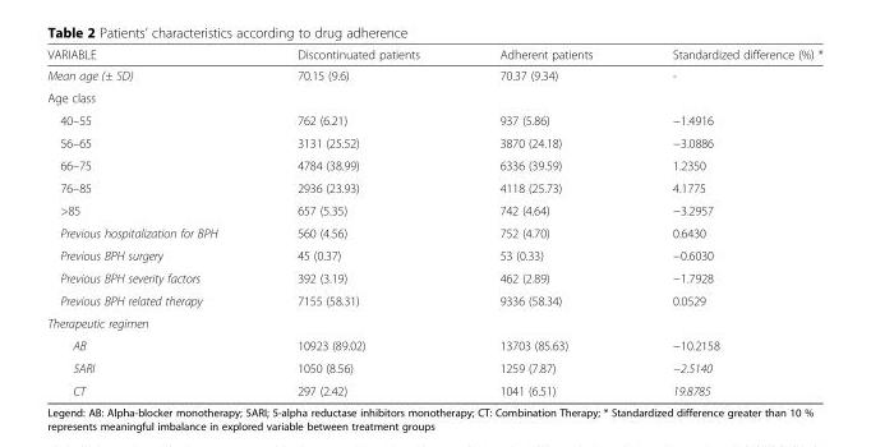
<table><thead><tr><td>VARIABLE</td><td>Discontinuated patients</td><td>Adherent patients</td><td>Standardized difference (%) *</td></tr></thead><tbody><tr><td>Mean age (± SD)</td><td>70.15 (9.6)</td><td>70.37 (9.34)</td><td>-</td></tr><tr><td colspan="4">Age class</td></tr><tr><td>40–55</td><td>762 (6.21)</td><td>937 (5.86)</td><td>−1.4916</td></tr><tr><td>56–65</td><td>3131 (25.52)</td><td>3870 (24.18)</td><td>−3.0886</td></tr><tr><td>66–75</td><td>4784 (38.99)</td><td>6336 (39.59)</td><td>1.2350</td></tr><tr><td>76–85</td><td>2936 (23.93)</td><td>4118 (25.73)</td><td>4.1775</td></tr><tr><td>&gt;85</td><td>657 (5.35)</td><td>742 (4.64)</td><td>−3.2957</td></tr><tr><td>Previous hospitalization for BPH</td><td>560 (4.56)</td><td>752 (4.70)</td><td>0.6430</td></tr><tr><td>Previous BPH surgery</td><td>45 (0.37)</td><td>53 (0.33)</td><td>−0.6030</td></tr><tr><td>Previous BPH severity factors</td><td>392 (3.19)</td><td>462 (2.89)</td><td>−1.7928</td></tr><tr><td>Previous BPH related therapy</td><td>7155 (58.31)</td><td>9336 (58.34)</td><td>0.0529</td></tr><tr><td colspan="4">Therapeutic regimen</td></tr><tr><td>AB</td><td>10923 (89.02)</td><td>13703 (85.63)</td><td>−10.2158</td></tr><tr><td>5ARI</td><td>1050 (8.56)</td><td>1259 (7.87)</td><td>−2.5140</td></tr><tr><td>CT</td><td>297 (2.42)</td><td>1041 (6.51)</td><td>19.8785</td></tr></tbody></table>